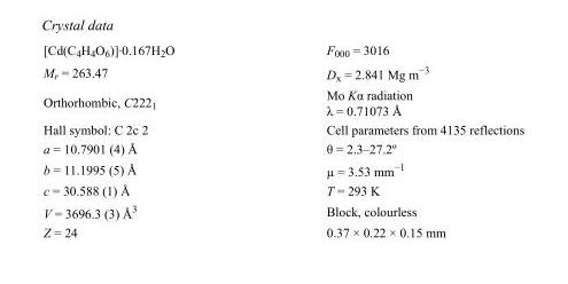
<table><tbody><tr><td>[Cd(C<sub>4</sub>H<sub>4</sub>O<sub>6</sub>)]·0.167H<sub>2</sub>O</td><td>F000 = 3016</td></tr><tr><td>M<sub>r</sub> = 263.47</td><td>D<sub>x</sub> = 2.841 Mg m<sup>−3</sup></td></tr><tr><td>Orthorhombic, C222<sub>1</sub></td><td>Mo Kα radiation λ = 0.71073 Å</td></tr><tr><td>Hall symbol: C 2c 2</td><td>Cell parameters from 4135 reflections</td></tr><tr><td>a = 10.7901 (4) Å</td><td>θ = 2.3–27.2º</td></tr><tr><td>b = 11.1995 (5) Å</td><td>µ = 3.53 mm<sup>−1</sup></td></tr><tr><td>c = 30.588 (1) Å</td><td>T = 293 K</td></tr><tr><td>V = 3696.3 (3) Å<sup>3</sup></td><td>Block, colourless</td></tr><tr><td>Z = 24</td><td>0.37 × 0.22 × 0.15 mm</td></tr></tbody></table>